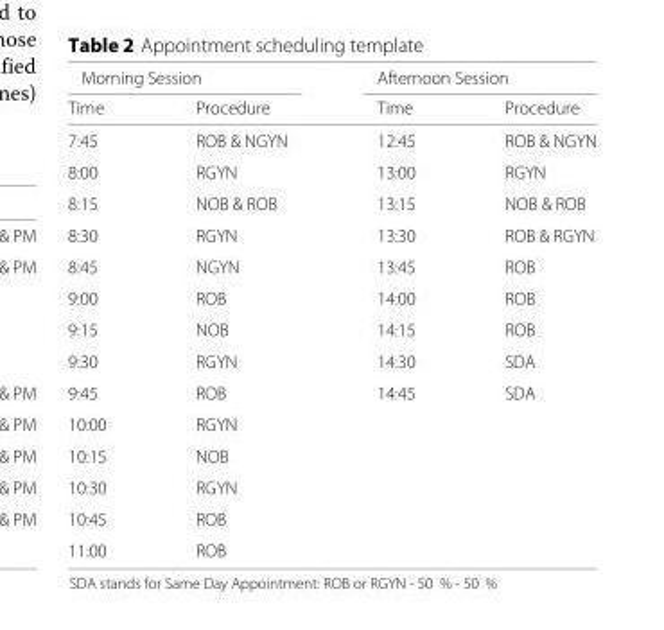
<table><thead><tr><td colspan="2">Morning Session</td><td colspan="2">Afternoon Session</td></tr><tr><td>Time</td><td>Procedure</td><td>Time</td><td>Procedure</td></tr></thead><tbody><tr><td>7:45</td><td>ROB &amp; NGYN</td><td>12:45</td><td>ROB &amp; NGYN</td></tr><tr><td>8:00</td><td>RGYN</td><td>13:00</td><td>RGYN</td></tr><tr><td>8:15</td><td>NOB &amp; ROB</td><td>13:15</td><td>NOB &amp; ROB</td></tr><tr><td>8:30</td><td>RGYN</td><td>13:30</td><td>ROB &amp; RGYN</td></tr><tr><td>8:45</td><td>NGYN</td><td>13:45</td><td>ROB</td></tr><tr><td>9:00</td><td>ROB</td><td>14:00</td><td>ROB</td></tr><tr><td>9:15</td><td>NOB</td><td>14:15</td><td>ROB</td></tr><tr><td>9:30</td><td>RGYN</td><td>14:30</td><td>SDA</td></tr><tr><td>9:45</td><td>ROB</td><td>14:45</td><td>SDA</td></tr><tr><td>10:00</td><td>RGYN</td><td></td><td></td></tr><tr><td>10:15</td><td>NOB</td><td></td><td></td></tr><tr><td>10:30</td><td>RGYN</td><td></td><td></td></tr><tr><td>10:45</td><td>ROB</td><td></td><td></td></tr><tr><td>11:00</td><td>ROB</td><td></td><td></td></tr></tbody></table>